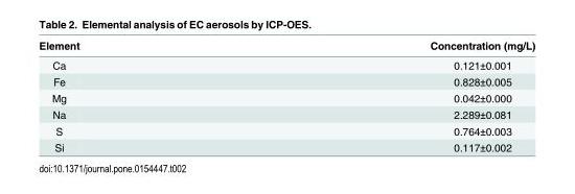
<table><thead><tr><td>Element</td><td>Concentration (mg/L)</td></tr></thead><tbody><tr><td>Ca</td><td>0.121±0.001</td></tr><tr><td>Fe</td><td>0.828±0.005</td></tr><tr><td>Mg</td><td>0.042±0.000</td></tr><tr><td>Na</td><td>2.289±0.081</td></tr><tr><td>S</td><td>0.764±0.003</td></tr><tr><td>Si</td><td>0.117±0.002</td></tr></tbody></table>